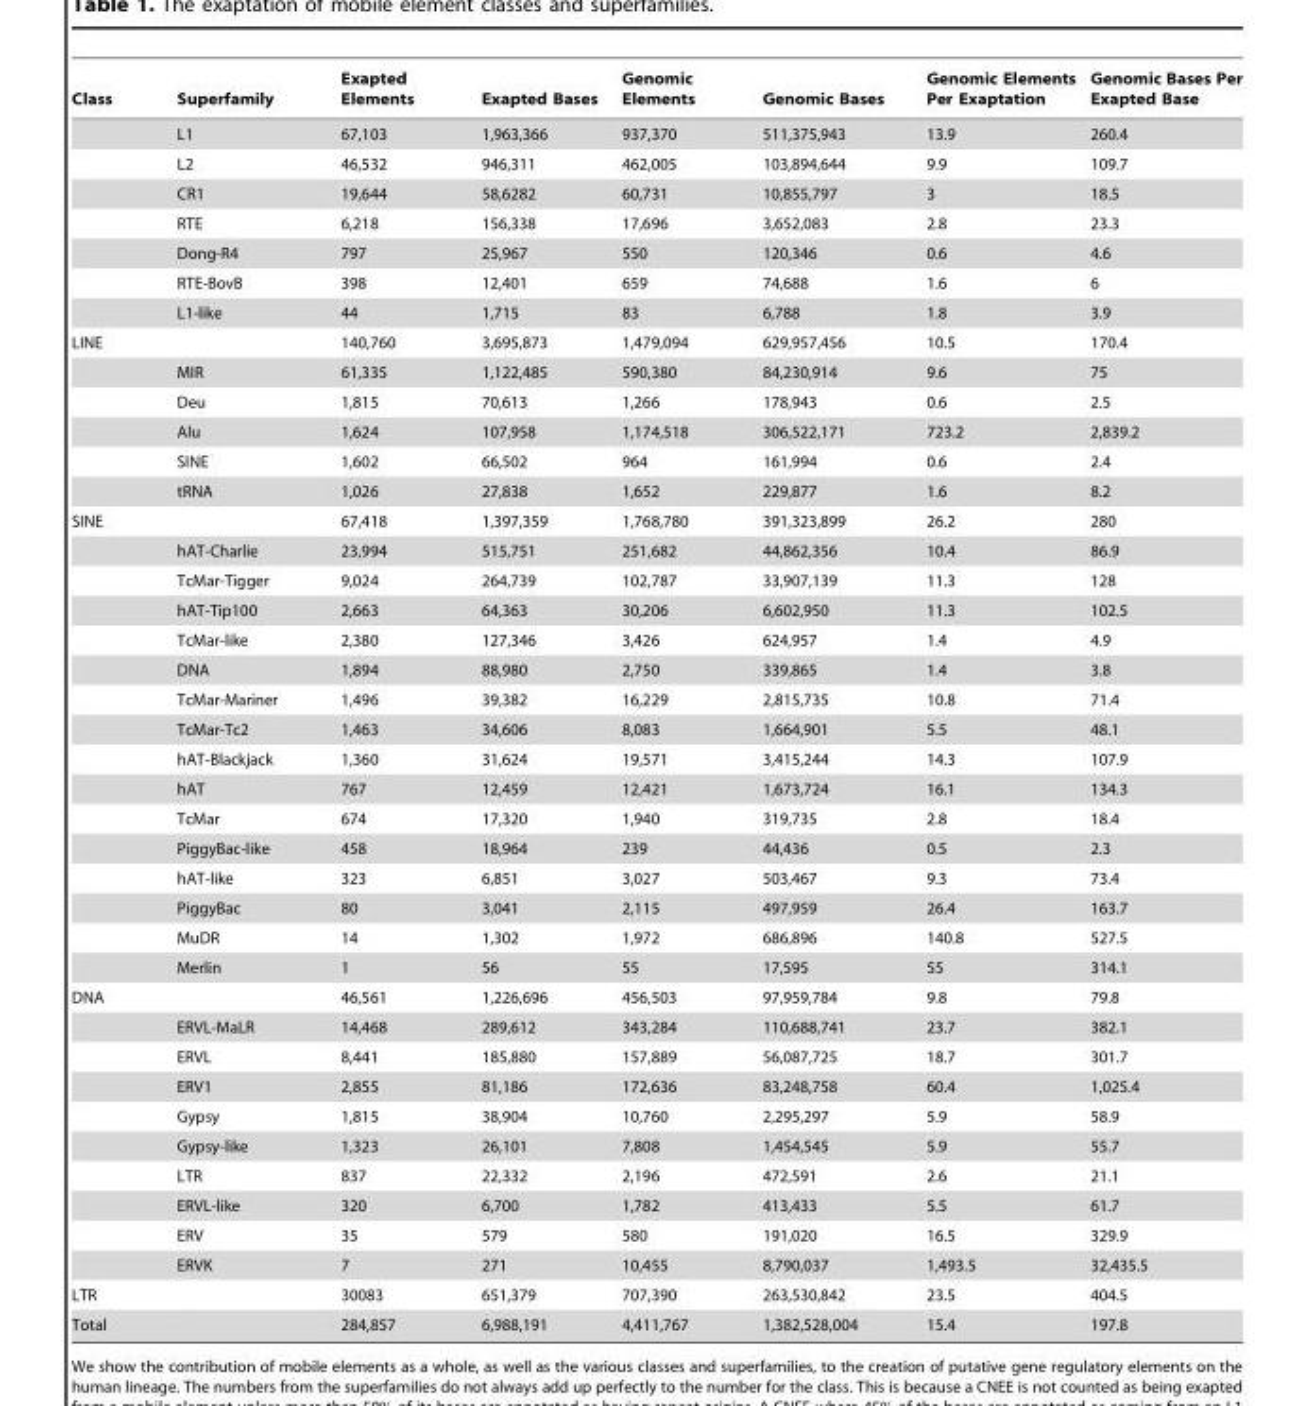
<table><thead><tr><td>Class</td><td>Superfamily</td><td>Exapted Elements</td><td>Exapted Bases</td><td>Genomic Elements</td><td>Genomic Bases</td><td>Genomic Elements Per Exaptation</td><td>Genomic Bases Per Exapted Base</td></tr></thead><tbody><tr><td></td><td>L1</td><td>67,103</td><td>1,963,366</td><td>937,370</td><td>511,375,943</td><td>13.9</td><td>260.4</td></tr><tr><td></td><td>L2</td><td>46,532</td><td>946,311</td><td>462,005</td><td>103,894,644</td><td>9.9</td><td>109.7</td></tr><tr><td></td><td>CR1</td><td>19,644</td><td>58,6282</td><td>60,731</td><td>10,855,797</td><td>3</td><td>18.5</td></tr><tr><td></td><td>RTE</td><td>6,218</td><td>156,338</td><td>17,696</td><td>3,652,083</td><td>2.8</td><td>23.3</td></tr><tr><td></td><td>Dong-R4</td><td>797</td><td>25,967</td><td>550</td><td>120,346</td><td>0.6</td><td>4.6</td></tr><tr><td></td><td>RTE-BovB</td><td>398</td><td>12,401</td><td>659</td><td>74,688</td><td>1.6</td><td>6</td></tr><tr><td></td><td>L1-like</td><td>44</td><td>1,715</td><td>83</td><td>6,788</td><td>1.8</td><td>3.9</td></tr><tr><td rowspan="6">LINE</td><td></td><td>140,760</td><td>3,695,873</td><td>1,479,094</td><td>629,957,456</td><td>10.5</td><td>170.4</td></tr><tr><td>MIR</td><td>61,335</td><td>1,122,485</td><td>590,380</td><td>84,230,914</td><td>9.6</td><td>75</td></tr><tr><td>Deu</td><td>1,815</td><td>70,613</td><td>1,266</td><td>178,943</td><td>0.6</td><td>2.5</td></tr><tr><td>Alu</td><td>1,624</td><td>107,958</td><td>1,174,518</td><td>306,522,171</td><td>723.2</td><td>2,839.2</td></tr><tr><td>SINE</td><td>1,602</td><td>66,502</td><td>964</td><td>161,994</td><td>0.6</td><td>2.4</td></tr><tr><td>tRNA</td><td>1,026</td><td>27,838</td><td>1,652</td><td>229,877</td><td>1.6</td><td>8.2</td></tr><tr><td rowspan="16">SINE</td><td></td><td>67,418</td><td>1,397,359</td><td>1,768,780</td><td>391,323,899</td><td>26.2</td><td>280</td></tr><tr><td>hAT-Charlie</td><td>23,994</td><td>515,751</td><td>251,682</td><td>44,862,356</td><td>10.4</td><td>86.9</td></tr><tr><td>TcMar-Tigger</td><td>9,024</td><td>264,739</td><td>102,787</td><td>33,907,139</td><td>11.3</td><td>128</td></tr><tr><td>hAT-Tip100</td><td>2,663</td><td>64,363</td><td>30,206</td><td>6,602,950</td><td>11.3</td><td>102.5</td></tr><tr><td>TcMar-like</td><td>2,380</td><td>127,346</td><td>3,426</td><td>624,957</td><td>1.4</td><td>4.9</td></tr><tr><td>DNA</td><td>1,894</td><td>88,980</td><td>2,750</td><td>339,865</td><td>1.4</td><td>3.8</td></tr><tr><td>TcMar-Mariner</td><td>1,496</td><td>39,382</td><td>16,229</td><td>2,815,735</td><td>10.8</td><td>71.4</td></tr><tr><td>TcMar-Tc2</td><td>1,463</td><td>34,606</td><td>8,083</td><td>1,664,901</td><td>5.5</td><td>48.1</td></tr><tr><td>hAT-Blackjack</td><td>1,360</td><td>31,624</td><td>19,571</td><td>3,415,244</td><td>14.3</td><td>107.9</td></tr><tr><td>hAT</td><td>767</td><td>12,459</td><td>12,421</td><td>1,673,724</td><td>16.1</td><td>134.3</td></tr><tr><td>TcMar</td><td>674</td><td>17,320</td><td>1,940</td><td>319,735</td><td>2.8</td><td>18.4</td></tr><tr><td>PiggyBac-like</td><td>458</td><td>18,964</td><td>239</td><td>44,436</td><td>0.5</td><td>2.3</td></tr><tr><td>hAT-like</td><td>323</td><td>6,851</td><td>3,027</td><td>503,467</td><td>9.3</td><td>73.4</td></tr><tr><td>PiggyBac</td><td>80</td><td>3,041</td><td>2,115</td><td>497,959</td><td>26.4</td><td>163.7</td></tr><tr><td>MuDR</td><td>14</td><td>1,302</td><td>1,972</td><td>686,896</td><td>140.8</td><td>527.5</td></tr><tr><td>Merlin</td><td>1</td><td>56</td><td>55</td><td>17,595</td><td>55</td><td>314.1</td></tr><tr><td rowspan="10">DNA</td><td></td><td>46,561</td><td>1,226,696</td><td>456,503</td><td>97,959,784</td><td>9.8</td><td>79.8</td></tr><tr><td>ERVL-MaLR</td><td>14,468</td><td>289,612</td><td>343,284</td><td>110,688,741</td><td>23.7</td><td>382.1</td></tr><tr><td>ERVL</td><td>8,441</td><td>185,880</td><td>157,889</td><td>56,087,725</td><td>18.7</td><td>301.7</td></tr><tr><td>ERV1</td><td>2,855</td><td>81,186</td><td>172,636</td><td>83,248,758</td><td>60.4</td><td>1,025.4</td></tr><tr><td>Gypsy</td><td>1,815</td><td>38,904</td><td>10,760</td><td>2,295,297</td><td>5.9</td><td>58.9</td></tr><tr><td>Gypsy-like</td><td>1,323</td><td>26,101</td><td>7,808</td><td>1,454,545</td><td>5.9</td><td>55.7</td></tr><tr><td>LTR</td><td>837</td><td>22,332</td><td>2,196</td><td>472,591</td><td>2.6</td><td>21.1</td></tr><tr><td>ERVL-like</td><td>320</td><td>6,700</td><td>1,782</td><td>413,433</td><td>5.5</td><td>61.7</td></tr><tr><td>ERV</td><td>35</td><td>579</td><td>580</td><td>191,020</td><td>16.5</td><td>329.9</td></tr><tr><td>ERVK</td><td>7</td><td>271</td><td>10,455</td><td>8,790,037</td><td>1,493.5</td><td>32,435.5</td></tr><tr><td>LTR</td><td></td><td>30083</td><td>651,379</td><td>707,390</td><td>263,530,842</td><td>23.5</td><td>404.5</td></tr><tr><td>Total</td><td></td><td>284,857</td><td>6,988,191</td><td>4,411,767</td><td>1,382,528,004</td><td>15.4</td><td>197.8</td></tr></tbody></table>